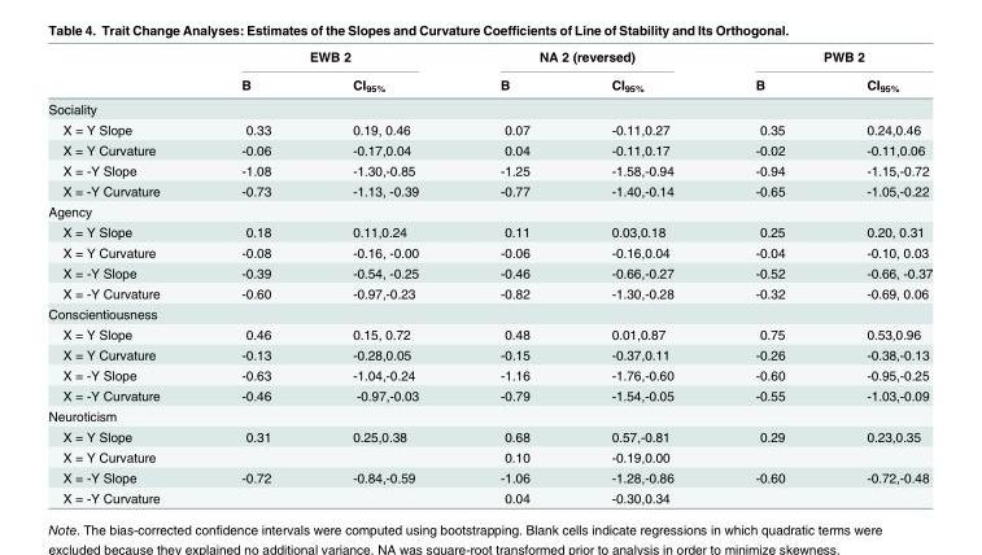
<table><thead><tr><td rowspan="2"></td><td colspan="2">EWB 2</td><td colspan="2">NA 2 (reversed)</td><td colspan="2">PWB 2</td></tr><tr><td>B</td><td>CI<sub>95%</sub></td><td>B</td><td>CI<sub>95%</sub></td><td>B</td><td>CI<sub>95%</sub></td></tr></thead><tbody><tr><td colspan="7">Sociality</td></tr><tr><td>X = Y Slope</td><td>0.33</td><td>0.19, 0.46</td><td>0.07</td><td>-0.11,0.27</td><td>0.35</td><td>0.24,0.46</td></tr><tr><td>X = Y Curvature</td><td>-0.06</td><td>-0.17,0.04</td><td>0.04</td><td>-0.11,0.17</td><td>-0.02</td><td>-0.11,0.06</td></tr><tr><td>X = -Y Slope</td><td>-1.08</td><td>-1.30,-0.85</td><td>-1.25</td><td>-1.58,-0.94</td><td>-0.94</td><td>-1.15,-0.72</td></tr><tr><td>X = -Y Curvature</td><td>-0.73</td><td>-1.13, -0.39</td><td>-0.77</td><td>-1.40,-0.14</td><td>-0.65</td><td>-1.05,-0.22</td></tr><tr><td colspan="7">Agency</td></tr><tr><td>X = Y Slope</td><td>0.18</td><td>0.11,0.24</td><td>0.11</td><td>0.03,0.18</td><td>0.25</td><td>0.20, 0.31</td></tr><tr><td>X = Y Curvature</td><td>-0.08</td><td>-0.16, -0.00</td><td>-0.06</td><td>-0.16,0.04</td><td>-0.04</td><td>-0.10, 0.03</td></tr><tr><td>X = -Y Slope</td><td>-0.39</td><td>-0.54, -0.25</td><td>-0.46</td><td>-0.66,-0.27</td><td>-0.52</td><td>-0.66, -0.37</td></tr><tr><td>X = -Y Curvature</td><td>-0.60</td><td>-0.97,-0.23</td><td>-0.82</td><td>-1.30,-0.28</td><td>-0.32</td><td>-0.69, 0.06</td></tr><tr><td colspan="7">Conscientiousness</td></tr><tr><td>X = Y Slope</td><td>0.46</td><td>0.15, 0.72</td><td>0.48</td><td>0.01,0.87</td><td>0.75</td><td>0.53,0.96</td></tr><tr><td>X = Y Curvature</td><td>-0.13</td><td>-0.28,0.05</td><td>-0.15</td><td>-0.37,0.11</td><td>-0.26</td><td>-0.38,-0.13</td></tr><tr><td>X = -Y Slope</td><td>-0.63</td><td>-1.04,-0.24</td><td>-1.16</td><td>-1.76,-0.60</td><td>-0.60</td><td>-0.95,-0.25</td></tr><tr><td>X = -Y Curvature</td><td>-0.46</td><td>-0.97,-0.03</td><td>-0.79</td><td>-1.54,-0.05</td><td>-0.55</td><td>-1.03,-0.09</td></tr><tr><td colspan="7">Neuroticism</td></tr><tr><td>X = Y Slope</td><td>0.31</td><td>0.25,0.38</td><td>0.68</td><td>0.57,-0.81</td><td>0.29</td><td>0.23,0.35</td></tr><tr><td>X = Y Curvature</td><td></td><td></td><td>0.10</td><td>-0.19,0.00</td><td></td><td></td></tr><tr><td>X = -Y Slope</td><td>-0.72</td><td>-0.84,-0.59</td><td>-1.06</td><td>-1.28,-0.86</td><td>-0.60</td><td>-0.72,-0.48</td></tr><tr><td>X = -Y Curvature</td><td></td><td></td><td>0.04</td><td>-0.30,0.34</td><td></td><td></td></tr></tbody></table>